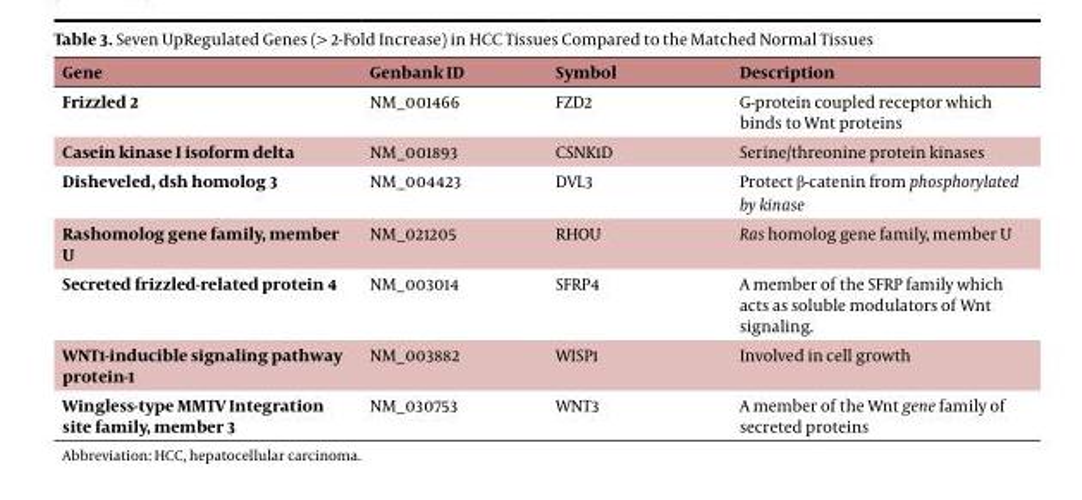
<table><thead><tr><td>Gene</td><td>Genbank ID</td><td>Symbol</td><td>Description</td></tr></thead><tbody><tr><td>Frizzled 2</td><td>NM_001466</td><td>FZD2</td><td>G-protein coupled receptor which binds to Wnt proteins</td></tr><tr><td>Casein kinase I isoform delta</td><td>NM_001893</td><td>CSNK1D</td><td>Serine/threonine protein kinases</td></tr><tr><td>Disheveled, dsh homolog 3</td><td>NM_004423</td><td>DVL3</td><td>Protect β-catenin from phosphorylated by kinase</td></tr><tr><td>Rashomolog gene family, member U</td><td>NM_021205</td><td>RHOU</td><td>Ras homolog gene family, member U</td></tr><tr><td>Secreted frizzled-related protein 4</td><td>NM_003014</td><td>SFRP4</td><td>A member of the SFRP family which acts as soluble modulators of Wnt signaling.</td></tr><tr><td>WNT1-inducible signaling pathway protein-1</td><td>NM_003882</td><td>WISP1</td><td>Involved in cell growth</td></tr><tr><td>Wingless-type MMTV Integration site family, member 3</td><td>NM_030753</td><td>WNT3</td><td>A member of the Wnt gene family of secreted proteins</td></tr></tbody></table>